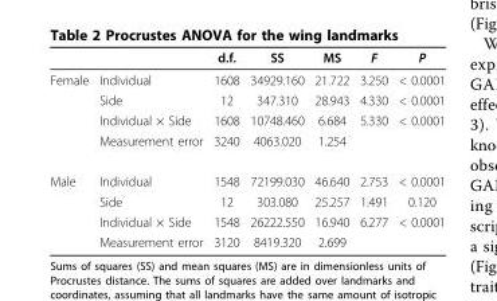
<table><thead><tr><td></td><td></td><td>d.f.</td><td>SS</td><td>MS</td><td>F</td><td>P</td></tr></thead><tbody><tr><td rowspan="4">Female</td><td>Individual</td><td>1608</td><td>34929.160</td><td>21.722</td><td>3.250</td><td>&lt; 0.0001</td></tr><tr><td>Side</td><td>12</td><td>347.310</td><td>28.943</td><td>4.330</td><td>&lt; 0.0001</td></tr><tr><td>Individual × Side</td><td>1608</td><td>10748.460</td><td>6.684</td><td>5.330</td><td>&lt; 0.0001</td></tr><tr><td>Measurement error</td><td>3240</td><td>4063.020</td><td>1.254</td><td></td><td></td></tr><tr><td rowspan="4">Male</td><td>Individual</td><td>1548</td><td>72199.030</td><td>46.640</td><td>2.753</td><td>&lt; 0.0001</td></tr><tr><td>Side</td><td>12</td><td>303.080</td><td>25.257</td><td>1.491</td><td>0.120</td></tr><tr><td>Individual × Side</td><td>1548</td><td>26222.550</td><td>16.940</td><td>6.277</td><td>&lt; 0.0001</td></tr><tr><td>Measurement error</td><td>3120</td><td>8419.320</td><td>2.699</td><td></td><td></td></tr></tbody></table>